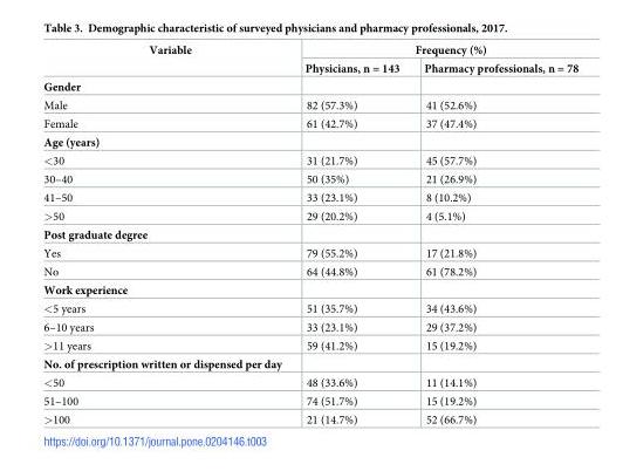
<table><thead><tr><td rowspan="2">Variable</td><td colspan="2">Frequency (%)</td></tr><tr><td>Physicians, n = 143</td><td>Pharmacy professionals, n = 78</td></tr></thead><tbody><tr><td colspan="3">Gender</td></tr><tr><td>Male</td><td>82 (57.3%)</td><td>41 (52.6%)</td></tr><tr><td>Female</td><td>61 (42.7%)</td><td>37 (47.4%)</td></tr><tr><td colspan="3">Age (years)</td></tr><tr><td>&lt;30</td><td>31 (21.7%)</td><td>45 (57.7%)</td></tr><tr><td>30–40</td><td>50 (35%)</td><td>21 (26.9%)</td></tr><tr><td>41–50</td><td>33 (23.1%)</td><td>8 (10.2%)</td></tr><tr><td>&gt;50</td><td>29 (20.2%)</td><td>4 (5.1%)</td></tr><tr><td colspan="3">Post graduate degree</td></tr><tr><td>Yes</td><td>79 (55.2%)</td><td>17 (21.8%)</td></tr><tr><td>No</td><td>64 (44.8%)</td><td>61 (78.2%)</td></tr><tr><td colspan="3">Work experience</td></tr><tr><td>&lt;5 years</td><td>51 (35.7%)</td><td>34 (43.6%)</td></tr><tr><td>6–10 years</td><td>33 (23.1%)</td><td>29 (37.2%)</td></tr><tr><td>&gt;11 years</td><td>59 (41.2%)</td><td>15 (19.2%)</td></tr><tr><td colspan="3">No. of prescription written or dispensed per day</td></tr><tr><td>&lt;50</td><td>48 (33.6%)</td><td>11 (14.1%)</td></tr><tr><td>51–100</td><td>74 (51.7%)</td><td>15 (19.2%)</td></tr><tr><td>&gt;100</td><td>21 (14.7%)</td><td>52 (66.7%)</td></tr></tbody></table>